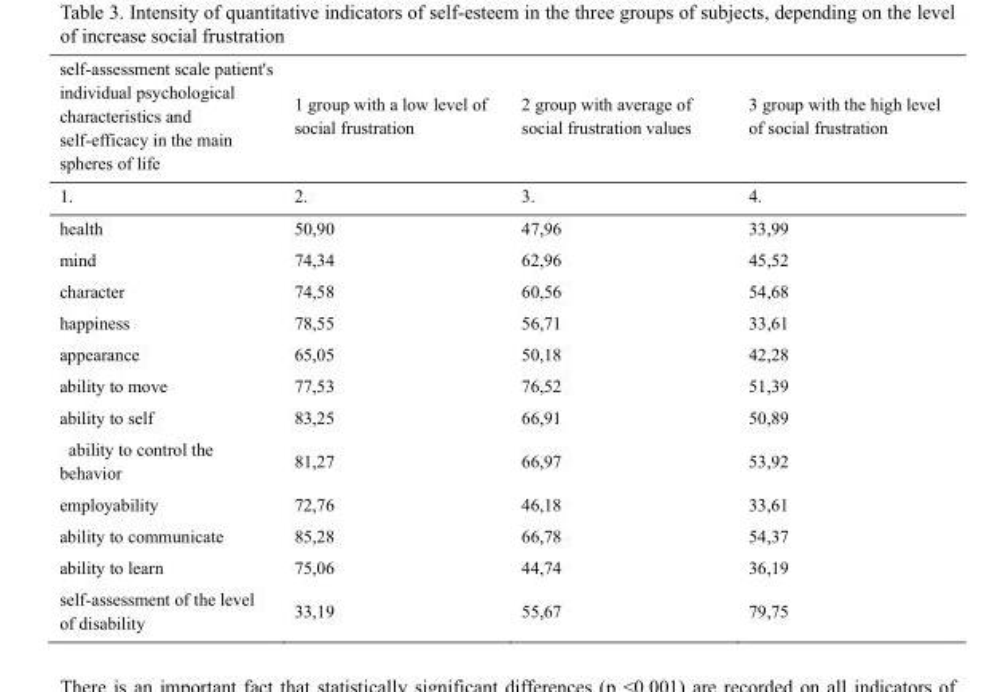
<table><thead><tr><td rowspan="2">self-assessment scale patient&#x27;s individual psychological characteristics and self-efficacy in the main spheres of life 1.</td><td rowspan="2">1 group with a low level of social frustration 2.</td><td rowspan="2">2 group with average of social frustration values 3.</td><td rowspan="2">3 group with the high level of social frustration 4.</td></tr><tr></tr></thead><tbody><tr><td>health</td><td>50,90</td><td>47,96</td><td>33,99</td></tr><tr><td>mind</td><td>74,34</td><td>62,96</td><td>45,52</td></tr><tr><td>character</td><td>74,58</td><td>60,56</td><td>54,68</td></tr><tr><td>happiness</td><td>78,55</td><td>56,71</td><td>33,61</td></tr><tr><td>appearance</td><td>65,05</td><td>50,18</td><td>42,28</td></tr><tr><td>ability to move</td><td>77,53</td><td>76,52</td><td>51,39</td></tr><tr><td>ability to self</td><td>83,25</td><td>66,91</td><td>50,89</td></tr><tr><td>ability to control the behavior</td><td>81,27</td><td>66,97</td><td>53,92</td></tr><tr><td>employability</td><td>72,76</td><td>46,18</td><td>33,61</td></tr><tr><td>ability to communicate</td><td>85,28</td><td>66,78</td><td>54,37</td></tr><tr><td>ability to learn</td><td>75,06</td><td>44,74</td><td>36,19</td></tr><tr><td>self-assessment of the level of disability</td><td>33,19</td><td>55,67</td><td>79,75</td></tr></tbody></table>